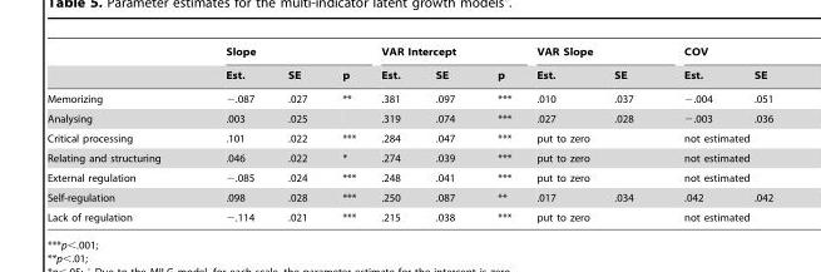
<table><thead><tr><td rowspan="2"></td><td colspan="3">Slope</td><td colspan="3">VAR Intercept</td><td colspan="2">VAR Slope</td><td colspan="2">COV</td></tr><tr><td>Est.</td><td>SE</td><td>p</td><td>Est.</td><td>SE</td><td>p</td><td>Est.</td><td>SE</td><td>Est.</td><td>SE</td></tr></thead><tbody><tr><td>Memorizing</td><td>−.087</td><td>.027</td><td>**</td><td>.381</td><td>.097</td><td>***</td><td>.010</td><td>.037</td><td>−.004</td><td>.051</td></tr><tr><td>Analysing</td><td>.003</td><td>.025</td><td></td><td>.319</td><td>.074</td><td>***</td><td>.027</td><td>.028</td><td>−.003</td><td>.036</td></tr><tr><td>Critical processing</td><td>.101</td><td>.022</td><td>***</td><td>.284</td><td>.047</td><td>***</td><td colspan="2">put to zero</td><td colspan="2">not estimated</td></tr><tr><td>Relating and structuring</td><td>.046</td><td>.022</td><td>*</td><td>.274</td><td>.039</td><td>***</td><td colspan="2">put to zero</td><td colspan="2">not estimated</td></tr><tr><td>External regulation</td><td>−.085</td><td>.024</td><td>***</td><td>.248</td><td>.041</td><td>***</td><td colspan="2">put to zero</td><td colspan="2">not estimated</td></tr><tr><td>Self-regulation</td><td>.098</td><td>.028</td><td>***</td><td>.250</td><td>.087</td><td>**</td><td>.017</td><td>.034</td><td>.042</td><td>.042</td></tr><tr><td>Lack of regulation</td><td>−.114</td><td>.021</td><td>***</td><td>.215</td><td>.038</td><td>***</td><td colspan="2">put to zero</td><td colspan="2">not estimated</td></tr></tbody></table>